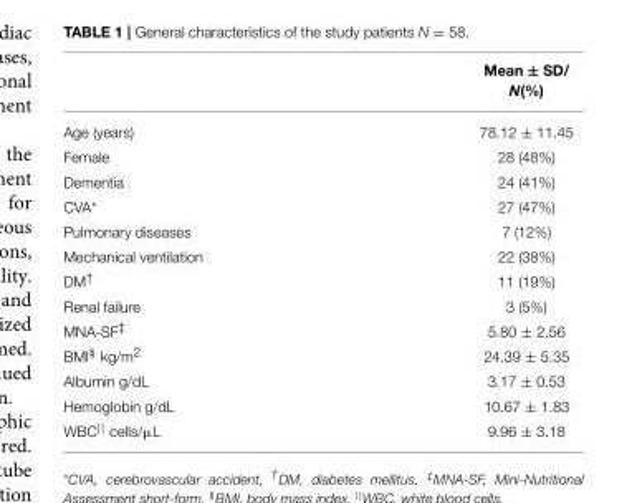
<table><thead><tr><td></td><td>Mean ± SD/ N(%)</td></tr></thead><tbody><tr><td>Age (years)</td><td>78.12 ± 11.45</td></tr><tr><td>Female</td><td>28 (48%)</td></tr><tr><td>Dementia</td><td>24 (41%)</td></tr><tr><td>CVA*</td><td>27 (47%)</td></tr><tr><td>Pulmonary diseases</td><td>7 (12%)</td></tr><tr><td>Mechanical ventilation</td><td>22 (38%)</td></tr><tr><td>DM<sup>†</sup></td><td>11 (19%)</td></tr><tr><td>Renal failure</td><td>3 (5%)</td></tr><tr><td>MNA-SF<sup>‡</sup></td><td>5.80 ± 2.56</td></tr><tr><td>BMI<sup>§</sup> kg/m<sup>2</sup></td><td>24.39 ± 5.35</td></tr><tr><td>Albumin g/dL</td><td>3.17 ± 0.53</td></tr><tr><td>Hemoglobin g/dL</td><td>10.67 ± 1.83</td></tr><tr><td>WBC<sup>||</sup> cells/µL</td><td>9.96 ± 3.18</td></tr></tbody></table>